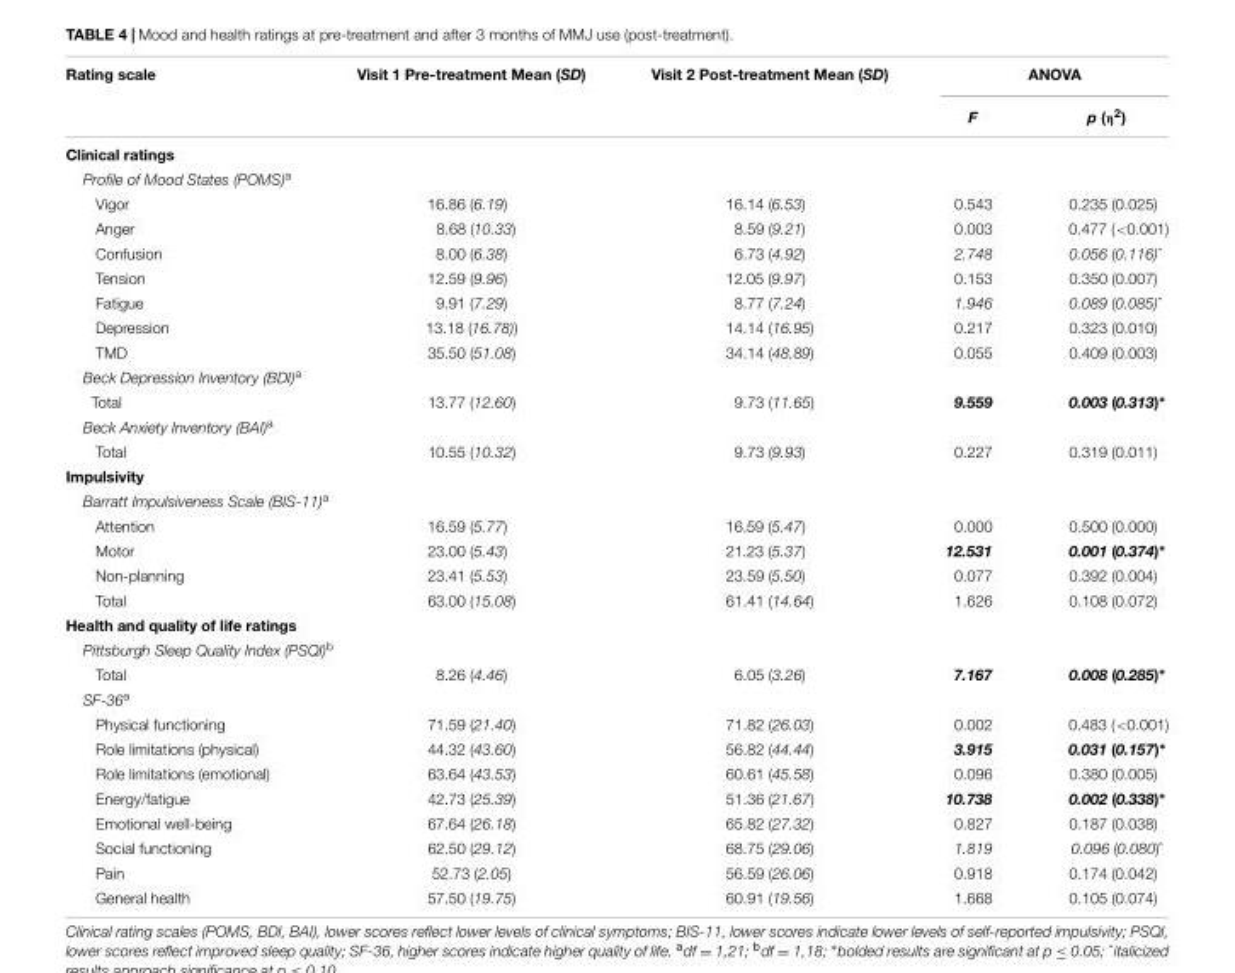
<table><thead><tr><td rowspan="2">Rating scale</td><td rowspan="2">Visit 1 Pre-treatment Mean (SD)</td><td rowspan="2">Visit 2 Post-treatment Mean (SD)</td><td colspan="2">ANOVA</td></tr><tr><td>F</td><td>p (η<sup>2</sup>)</td></tr></thead><tbody><tr><td colspan="5">Clinical ratings</td></tr><tr><td colspan="5">Profile of Mood States (POMS)<sup>a</sup></td></tr><tr><td>Vigor</td><td>16.86 (6.19)</td><td>16.14 (6.53)</td><td>0.543</td><td>0.235 (0.025)</td></tr><tr><td>Anger</td><td>8.68 (10.33)</td><td>8.59 (9.21)</td><td>0.003</td><td>0.477 (&lt;0.001)</td></tr><tr><td>Confusion</td><td>8.00 (6.38)</td><td>6.73 (4.92)</td><td>2.748</td><td>0.056 (0.116)ˆ</td></tr><tr><td>Tension</td><td>12.59 (9.96)</td><td>12.05 (9.97)</td><td>0.153</td><td>0.350 (0.007)</td></tr><tr><td>Fatigue</td><td>9.91 (7.29)</td><td>8.77 (7.24)</td><td>1.946</td><td>0.089 (0.085)ˆ</td></tr><tr><td>Depression</td><td>13.18 (16.78))</td><td>14.14 (16.95)</td><td>0.217</td><td>0.323 (0.010)</td></tr><tr><td>TMD</td><td>35.50 (51.08)</td><td>34.14 (48.89)</td><td>0.055</td><td>0.409 (0.003)</td></tr><tr><td colspan="5">Beck Depression Inventory (BDI)<sup>a</sup></td></tr><tr><td>Total</td><td>13.77 (12.60)</td><td>9.73 (11.65)</td><td>9.559</td><td>0.003 (0.313)∗</td></tr><tr><td colspan="5">Beck Anxiety Inventory (BAI)<sup>a</sup></td></tr><tr><td>Total</td><td>10.55 (10.32)</td><td>9.73 (9.93)</td><td>0.227</td><td>0.319 (0.011)</td></tr><tr><td colspan="5">Impulsivity</td></tr><tr><td colspan="5">Barratt Impulsiveness Scale (BIS-11)<sup>a</sup></td></tr><tr><td>Attention</td><td>16.59 (5.77)</td><td>16.59 (5.47)</td><td>0.000</td><td>0.500 (0.000)</td></tr><tr><td>Motor</td><td>23.00 (5.43)</td><td>21.23 (5.37)</td><td>12.531</td><td>0.001 (0.374)∗</td></tr><tr><td>Non-planning</td><td>23.41 (5.53)</td><td>23.59 (5.50)</td><td>0.077</td><td>0.392 (0.004)</td></tr><tr><td>Total</td><td>63.00 (15.08)</td><td>61.41 (14.64)</td><td>1.626</td><td>0.108 (0.072)</td></tr><tr><td colspan="5">Health and quality of life ratings</td></tr><tr><td colspan="5">Pittsburgh Sleep Quality Index (PSQI)<sup>b</sup></td></tr><tr><td>Total</td><td>8.26 (4.46)</td><td>6.05 (3.26)</td><td>7.167</td><td>0.008 (0.285)∗</td></tr><tr><td colspan="5">SF-36<sup>a</sup></td></tr><tr><td>Physical functioning</td><td>71.59 (21.40)</td><td>71.82 (26.03)</td><td>0.002</td><td>0.483 (&lt;0.001)</td></tr><tr><td>Role limitations (physical)</td><td>44.32 (43.60)</td><td>56.82 (44.44)</td><td>3.915</td><td>0.031 (0.157)∗</td></tr><tr><td>Role limitations (emotional)</td><td>63.64 (43.53)</td><td>60.61 (45.58)</td><td>0.096</td><td>0.380 (0.005)</td></tr><tr><td>Energy/fatigue</td><td>42.73 (25.39)</td><td>51.36 (21.67)</td><td>10.738</td><td>0.002 (0.338)∗</td></tr><tr><td>Emotional well-being</td><td>67.64 (26.18)</td><td>65.82 (27.32)</td><td>0.827</td><td>0.187 (0.038)</td></tr><tr><td>Social functioning</td><td>62.50 (29.12)</td><td>68.75 (29.06)</td><td>1.819</td><td>0.096 (0.080)ˆ</td></tr><tr><td>Pain</td><td>52.73 (2.05)</td><td>56.59 (26.06)</td><td>0.918</td><td>0.174 (0.042)</td></tr><tr><td>General health</td><td>57.50 (19.75)</td><td>60.91 (19.56)</td><td>1.668</td><td>0.105 (0.074)</td></tr></tbody></table>